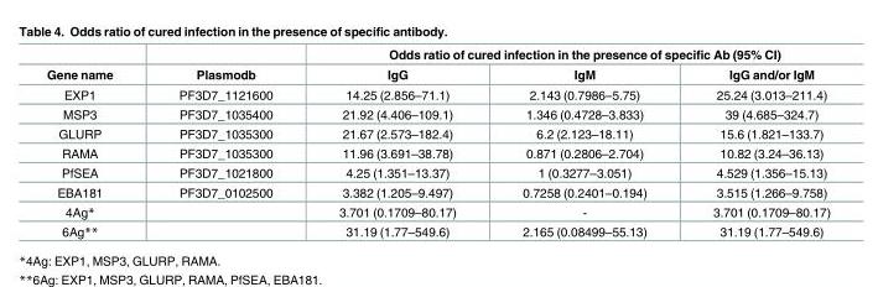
<table><thead><tr><td rowspan="2">Gene name</td><td rowspan="2">Plasmodb</td><td colspan="3">Odds ratio of cured infection in the presence of specific Ab (95% CI)</td></tr><tr><td>IgG</td><td>IgM</td><td>IgG and/or IgM</td></tr></thead><tbody><tr><td>EXP1</td><td>PF3D7_1121600</td><td>14.25 (2.856–71.1)</td><td>2.143 (0.7986–5.75)</td><td>25.24 (3.013–211.4)</td></tr><tr><td>MSP3</td><td>PF3D7_1035400</td><td>21.92 (4.406–109.1)</td><td>1.346 (0.4728–3.833)</td><td>39 (4.685–324.7)</td></tr><tr><td>GLURP</td><td>PF3D7_1035300</td><td>21.67 (2.573–182.4)</td><td>6.2 (2.123–18.11)</td><td>15.6 (1.821–133.7)</td></tr><tr><td>RAMA</td><td>PF3D7_1035300</td><td>11.96 (3.691–38.78)</td><td>0.871 (0.2806–2.704)</td><td>10.82 (3.24–36.13)</td></tr><tr><td>PfSEA</td><td>PF3D7_1021800</td><td>4.25 (1.351–13.37)</td><td>1 (0.3277–3.051)</td><td>4.529 (1.356–15.13)</td></tr><tr><td>EBA181</td><td>PF3D7_0102500</td><td>3.382 (1.205–9.497)</td><td>0.7258 (0.2401–0.194)</td><td>3.515 (1.266–9.758)</td></tr><tr><td>4Ag*</td><td></td><td>3.701 (0.1709–80.17)</td><td>-</td><td>3.701 (0.1709–80.17)</td></tr><tr><td>6Ag**</td><td></td><td>31.19 (1.77–549.6)</td><td>2.165 (0.08499–55.13)</td><td>31.19 (1.77–549.6)</td></tr></tbody></table>